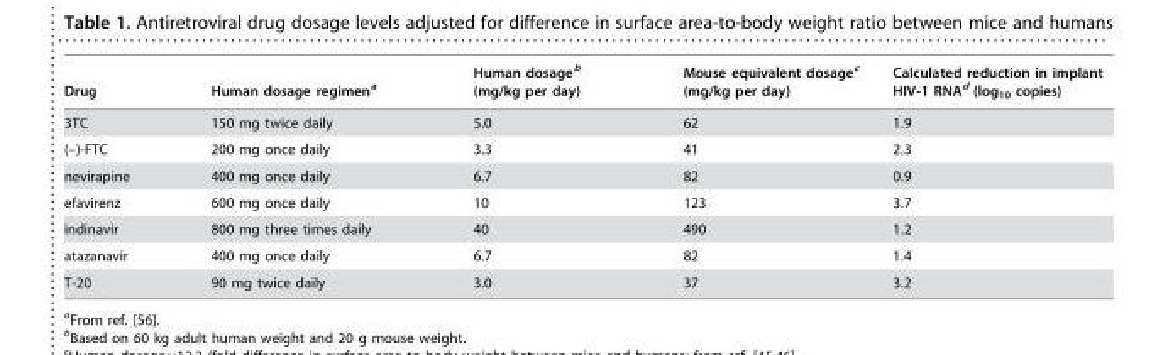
<table><thead><tr><td>Drug</td><td>Human dosage regimen<sup>a</sup></td><td>Human dosage<sup>b</sup> (mg/kg per day)</td><td>Mouse equivalent dosage<sup>c</sup> (mg/kg per day)</td><td>Calculated reduction in implant HIV-1 RNA<sup>d</sup> (log<sub>10</sub> copies)</td></tr></thead><tbody><tr><td>3TC</td><td>150 mg twice daily</td><td>5.0</td><td>62</td><td>1.9</td></tr><tr><td>(–)-FTC</td><td>200 mg once daily</td><td>3.3</td><td>41</td><td>2.3</td></tr><tr><td>nevirapine</td><td>400 mg once daily</td><td>6.7</td><td>82</td><td>0.9</td></tr><tr><td>efavirenz</td><td>600 mg once daily</td><td>10</td><td>123</td><td>3.7</td></tr><tr><td>indinavir</td><td>800 mg three times daily</td><td>40</td><td>490</td><td>1.2</td></tr><tr><td>atazanavir</td><td>400 mg once daily</td><td>6.7</td><td>82</td><td>1.4</td></tr><tr><td>T-20</td><td>90 mg twice daily</td><td>3.0</td><td>37</td><td>3.2</td></tr></tbody></table>